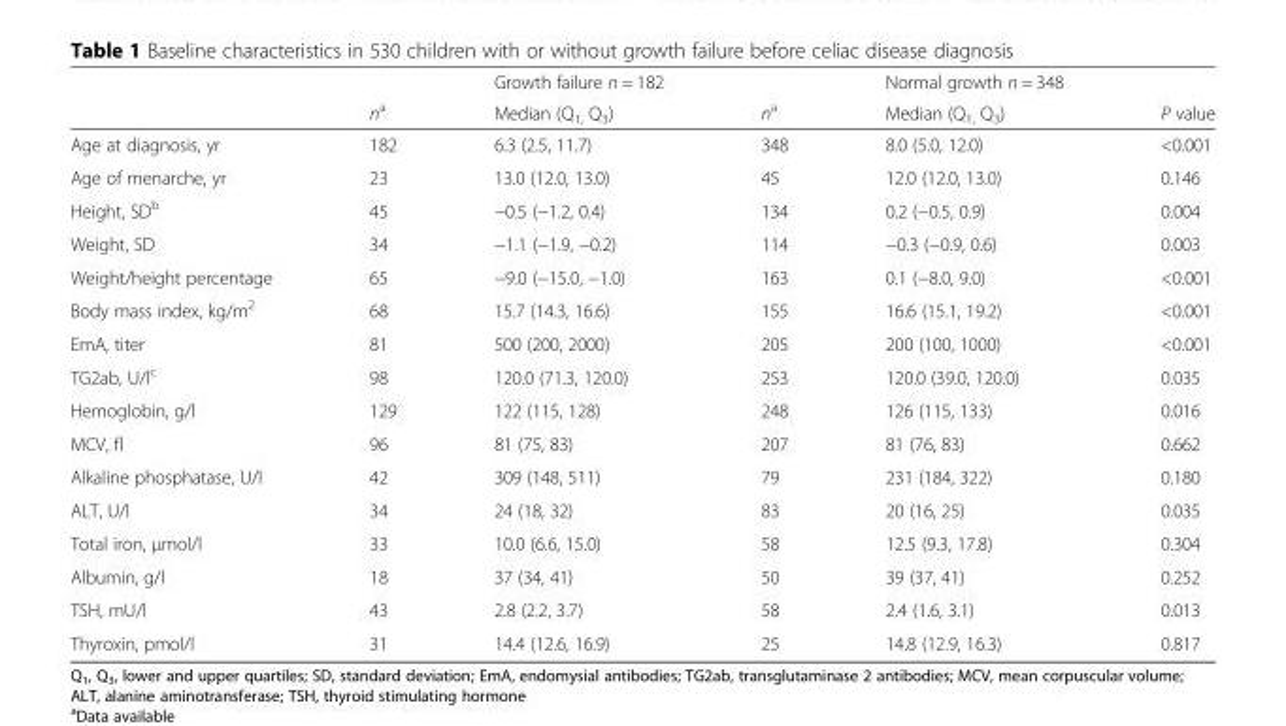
<table><thead><tr><td rowspan="2"></td><td rowspan="2">n<sup>a</sup></td><td rowspan="2">Growth failure n = 182 Median (Q<sub>1,</sub> Q<sub>3</sub>)</td><td rowspan="2">n<sup>a</sup></td><td rowspan="2">Normal growth n = 348 Median (Q<sub>1,</sub> Q<sub>3</sub>)</td><td rowspan="2">P value</td></tr><tr></tr></thead><tbody><tr><td>Age at diagnosis, yr</td><td>182</td><td>6.3 (2.5, 11.7)</td><td>348</td><td>8.0 (5.0, 12.0)</td><td>&lt;0.001</td></tr><tr><td>Age of menarche, yr</td><td>23</td><td>13.0 (12.0, 13.0)</td><td>45</td><td>12.0 (12.0, 13.0)</td><td>0.146</td></tr><tr><td>Height, SD<sup>b</sup></td><td>45</td><td>−0.5 (−1.2, 0.4)</td><td>134</td><td>0.2 (−0.5, 0.9)</td><td>0.004</td></tr><tr><td>Weight, SD</td><td>34</td><td>−1.1 (−1.9, −0.2)</td><td>114</td><td>−0.3 (−0.9, 0.6)</td><td>0.003</td></tr><tr><td>Weight/height percentage</td><td>65</td><td>−9.0 (−15.0, −1.0)</td><td>163</td><td>0.1 (−8.0, 9.0)</td><td>&lt;0.001</td></tr><tr><td>Body mass index, kg/m<sup>2</sup></td><td>68</td><td>15.7 (14.3, 16.6)</td><td>155</td><td>16.6 (15.1, 19.2)</td><td>&lt;0.001</td></tr><tr><td>EmA, titer</td><td>81</td><td>500 (200, 2000)</td><td>205</td><td>200 (100, 1000)</td><td>&lt;0.001</td></tr><tr><td>TG2ab, U/l<sup>c</sup></td><td>98</td><td>120.0 (71.3, 120.0)</td><td>253</td><td>120.0 (39.0, 120.0)</td><td>0.035</td></tr><tr><td>Hemoglobin, g/l</td><td>129</td><td>122 (115, 128)</td><td>248</td><td>126 (115, 133)</td><td>0.016</td></tr><tr><td>MCV, fl</td><td>96</td><td>81 (75, 83)</td><td>207</td><td>81 (76, 83)</td><td>0.662</td></tr><tr><td>Alkaline phosphatase, U/l</td><td>42</td><td>309 (148, 511)</td><td>79</td><td>231 (184, 322)</td><td>0.180</td></tr><tr><td>ALT, U/l</td><td>34</td><td>24 (18, 32)</td><td>83</td><td>20 (16, 25)</td><td>0.035</td></tr><tr><td>Total iron, μmol/l</td><td>33</td><td>10.0 (6.6, 15.0)</td><td>58</td><td>12.5 (9.3, 17.8)</td><td>0.304</td></tr><tr><td>Albumin, g/l</td><td>18</td><td>37 (34, 41)</td><td>50</td><td>39 (37, 41)</td><td>0.252</td></tr><tr><td>TSH, mU/l</td><td>43</td><td>2.8 (2.2, 3.7)</td><td>58</td><td>2.4 (1.6, 3.1)</td><td>0.013</td></tr><tr><td>Thyroxin, pmol/l</td><td>31</td><td>14.4 (12.6, 16.9)</td><td>25</td><td>14.8 (12.9, 16.3)</td><td>0.817</td></tr></tbody></table>